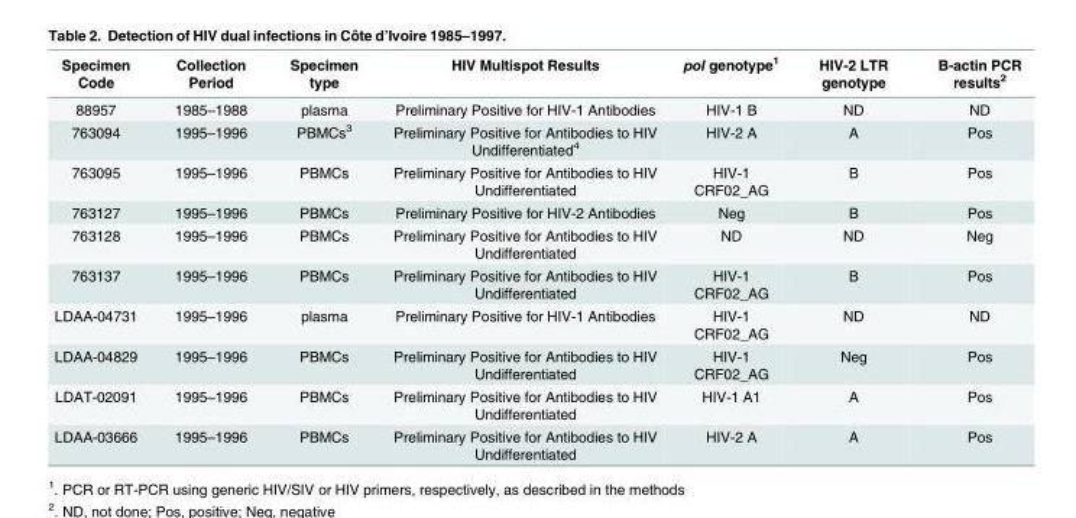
<table><thead><tr><td>Specimen Code</td><td>Collection Period</td><td>Specimen type</td><td>HIV Multispot Results</td><td>pol genotype<sup>1</sup></td><td>HIV-2 LTR genotype</td><td>B-actin PCR results<sup>2</sup></td></tr></thead><tbody><tr><td>88957</td><td>1985–1988</td><td>plasma</td><td>Preliminary Positive for HIV-1 Antibodies</td><td>HIV-1 B</td><td>ND</td><td>ND</td></tr><tr><td>763094</td><td>1995–1996</td><td>PBMCs<sup>3</sup></td><td>Preliminary Positive for Antibodies to HIV Undifferentiated<sup>4</sup></td><td>HIV-2 A</td><td>A</td><td>Pos</td></tr><tr><td>763095</td><td>1995–1996</td><td>PBMCs</td><td>Preliminary Positive for Antibodies to HIV Undifferentiated</td><td>HIV-1 CRF02_AG</td><td>B</td><td>Pos</td></tr><tr><td>763127</td><td>1995–1996</td><td>PBMCs</td><td>Preliminary Positive for HIV-2 Antibodies</td><td>Neg</td><td>B</td><td>Pos</td></tr><tr><td>763128</td><td>1995–1996</td><td>PBMCs</td><td>Preliminary Positive for Antibodies to HIV Undifferentiated</td><td>ND</td><td>ND</td><td>Neg</td></tr><tr><td>763137</td><td>1995–1996</td><td>PBMCs</td><td>Preliminary Positive for Antibodies to HIV Undifferentiated</td><td>HIV-1 CRF02_AG</td><td>B</td><td>Pos</td></tr><tr><td>LDAA-04731</td><td>1995–1996</td><td>plasma</td><td>Preliminary Positive for HIV-1 Antibodies</td><td>HIV-1 CRF02_AG</td><td>ND</td><td>ND</td></tr><tr><td>LDAA-04829</td><td>1995–1996</td><td>PBMCs</td><td>Preliminary Positive for Antibodies to HIV Undifferentiated</td><td>HIV-1 CRF02_AG</td><td>Neg</td><td>Pos</td></tr><tr><td>LDAT-02091</td><td>1995–1996</td><td>PBMCs</td><td>Preliminary Positive for Antibodies to HIV Undifferentiated</td><td>HIV-1 A1</td><td>A</td><td>Pos</td></tr><tr><td>LDAA-03666</td><td>1995–1996</td><td>PBMCs</td><td>Preliminary Positive for Antibodies to HIV Undifferentiated</td><td>HIV-2 A</td><td>A</td><td>Pos</td></tr></tbody></table>